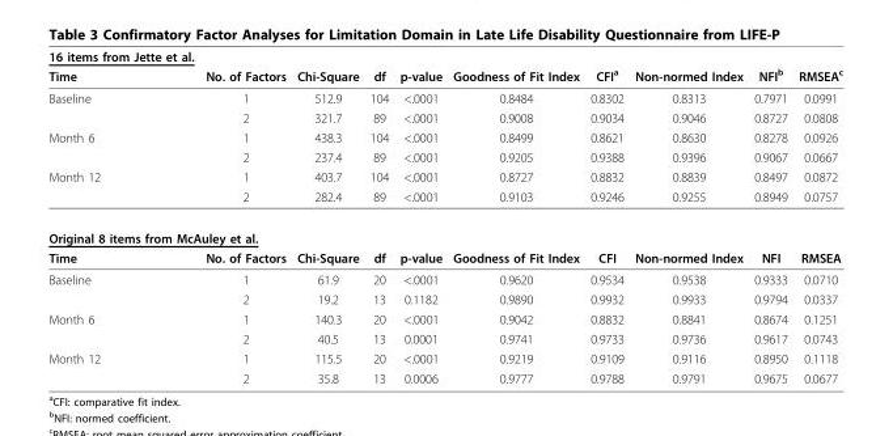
<table><thead><tr><td rowspan="2">16 items from Jette et al. Time</td><td rowspan="2">No. of Factors</td><td rowspan="2">Chi-Square</td><td rowspan="2">df</td><td rowspan="2">p-value</td><td rowspan="2">Goodness of Fit Index</td><td rowspan="2">CFI<sup>a</sup></td><td rowspan="2">Non-normed Index</td><td rowspan="2">NFI<sup>b</sup></td><td rowspan="2">RMSEA<sup>c</sup></td></tr><tr></tr></thead><tbody><tr><td rowspan="2">Baseline</td><td>1</td><td>512.9</td><td>104</td><td>&lt;.0001</td><td>0.8484</td><td>0.8302</td><td>0.8313</td><td>0.7971</td><td>0.0991</td></tr><tr><td>2</td><td>321.7</td><td>89</td><td>&lt;.0001</td><td>0.9008</td><td>0.9034</td><td>0.9046</td><td>0.8727</td><td>0.0808</td></tr><tr><td rowspan="2">Month 6</td><td>1</td><td>438.3</td><td>104</td><td>&lt;.0001</td><td>0.8499</td><td>0.8621</td><td>0.8630</td><td>0.8278</td><td>0.0926</td></tr><tr><td>2</td><td>237.4</td><td>89</td><td>&lt;.0001</td><td>0.9205</td><td>0.9388</td><td>0.9396</td><td>0.9067</td><td>0.0667</td></tr><tr><td rowspan="2">Month 12</td><td>1</td><td>403.7</td><td>104</td><td>&lt;.0001</td><td>0.8727</td><td>0.8832</td><td>0.8839</td><td>0.8497</td><td>0.0872</td></tr><tr><td>2</td><td>282.4</td><td>89</td><td>&lt;.0001</td><td>0.9103</td><td>0.9246</td><td>0.9255</td><td>0.8949</td><td>0.0757</td></tr><tr><td colspan="10">Original 8 items from McAuley et al.</td></tr><tr><td>Time</td><td>No. of Factors</td><td>Chi-Square</td><td>df</td><td>p-value</td><td>Goodness of Fit Index</td><td>CFI</td><td>Non-normed Index</td><td>NFI</td><td>RMSEA</td></tr><tr><td rowspan="2">Baseline</td><td>1</td><td>61.9</td><td>20</td><td>&lt;.0001</td><td>0.9620</td><td>0.9534</td><td>0.9538</td><td>0.9333</td><td>0.0710</td></tr><tr><td>2</td><td>19.2</td><td>13</td><td>0.1182</td><td>0.9890</td><td>0.9932</td><td>0.9933</td><td>0.9794</td><td>0.0337</td></tr><tr><td rowspan="2">Month 6</td><td>1</td><td>140.3</td><td>20</td><td>&lt;.0001</td><td>0.9042</td><td>0.8832</td><td>0.8841</td><td>0.8674</td><td>0.1251</td></tr><tr><td>2</td><td>40.5</td><td>13</td><td>0.0001</td><td>0.9741</td><td>0.9733</td><td>0.9736</td><td>0.9617</td><td>0.0743</td></tr><tr><td rowspan="2">Month 12</td><td>1</td><td>115.5</td><td>20</td><td>&lt;.0001</td><td>0.9219</td><td>0.9109</td><td>0.9116</td><td>0.8950</td><td>0.1118</td></tr><tr><td>2</td><td>35.8</td><td>13</td><td>0.0006</td><td>0.9777</td><td>0.9788</td><td>0.9791</td><td>0.9675</td><td>0.0677</td></tr></tbody></table>